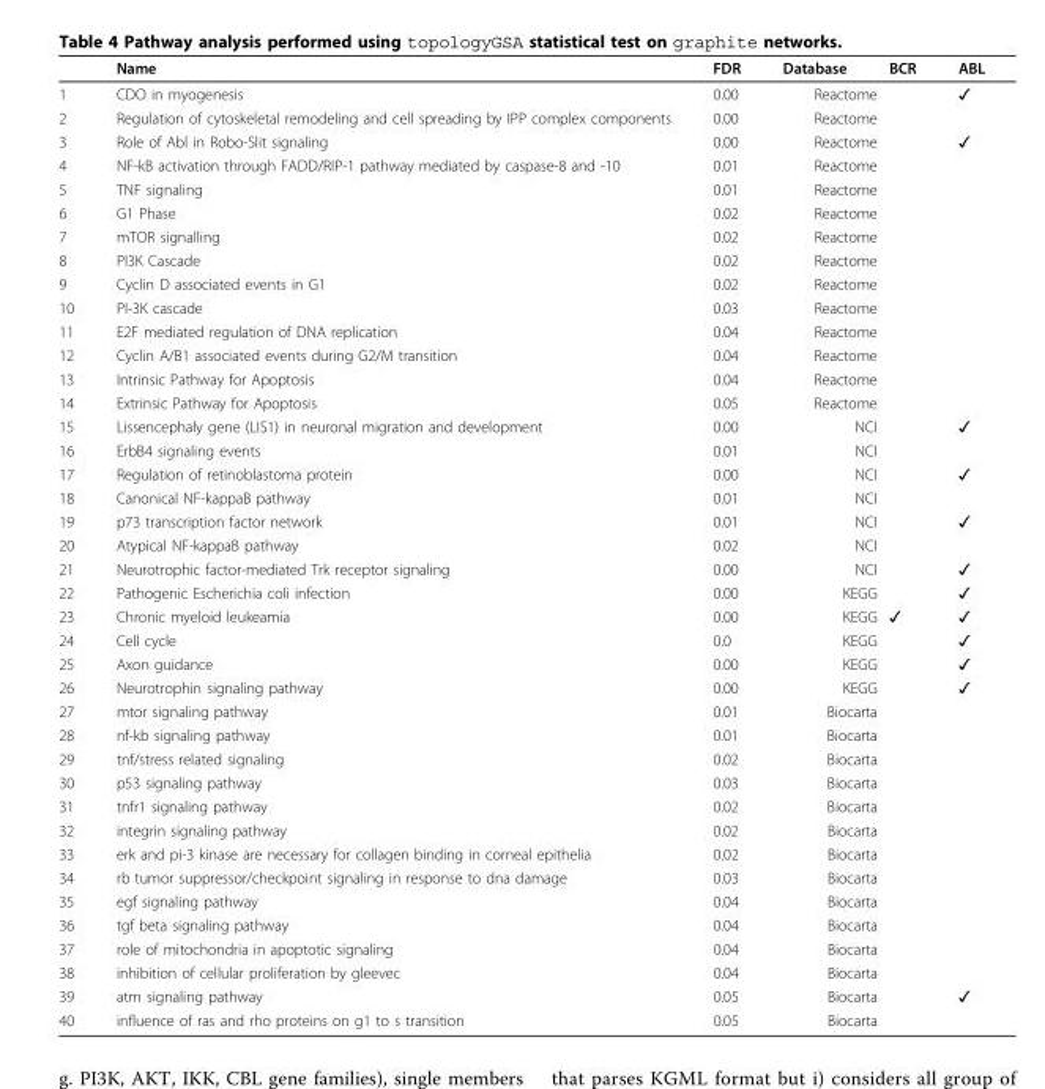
<table><thead><tr><td></td><td>Name</td><td>FDR</td><td>Database</td><td>BCR</td><td>ABL</td></tr></thead><tbody><tr><td>1</td><td>CDO in myogenesis</td><td>0.00</td><td>Reactome</td><td></td><td>✓</td></tr><tr><td>2</td><td>Regulation of cytoskeletal remodeling and cell spreading by IPP complex components</td><td>0.00</td><td>Reactome</td><td></td><td></td></tr><tr><td>3</td><td>Role of Abl in Robo-Slit signaling</td><td>0.00</td><td>Reactome</td><td></td><td>✓</td></tr><tr><td>4</td><td>NF-kB activation through FADD/RIP-1 pathway mediated by caspase-8 and -10</td><td>0.01</td><td>Reactome</td><td></td><td></td></tr><tr><td>5</td><td>TNF signaling</td><td>0.01</td><td>Reactome</td><td></td><td></td></tr><tr><td>6</td><td>G1 Phase</td><td>0.02</td><td>Reactome</td><td></td><td></td></tr><tr><td>7</td><td>mTOR signalling</td><td>0.02</td><td>Reactome</td><td></td><td></td></tr><tr><td>8</td><td>PI3K Cascade</td><td>0.02</td><td>Reactome</td><td></td><td></td></tr><tr><td>9</td><td>Cyclin D associated events in G1</td><td>0.02</td><td>Reactome</td><td></td><td></td></tr><tr><td>10</td><td>PI-3K cascade</td><td>0.03</td><td>Reactome</td><td></td><td></td></tr><tr><td>11</td><td>E2F mediated regulation of DNA replication</td><td>0.04</td><td>Reactome</td><td></td><td></td></tr><tr><td>12</td><td>Cyclin A/B1 associated events during G2/M transition</td><td>0.04</td><td>Reactome</td><td></td><td></td></tr><tr><td>13</td><td>Intrinsic Pathway for Apoptosis</td><td>0.04</td><td>Reactome</td><td></td><td></td></tr><tr><td>14</td><td>Extrinsic Pathway for Apoptosis</td><td>0.05</td><td>Reactome</td><td></td><td></td></tr><tr><td>15</td><td>Lissencephaly gene (LIS1) in neuronal migration and development</td><td>0.00</td><td>NCI</td><td></td><td>✓</td></tr><tr><td>16</td><td>ErbB4 signaling events</td><td>0.01</td><td>NCI</td><td></td><td></td></tr><tr><td>17</td><td>Regulation of retinoblastoma protein</td><td>0.00</td><td>NCI</td><td></td><td>✓</td></tr><tr><td>18</td><td>Canonical NF-kappaB pathway</td><td>0.01</td><td>NCI</td><td></td><td></td></tr><tr><td>19</td><td>p73 transcription factor network</td><td>0.01</td><td>NCI</td><td></td><td>✓</td></tr><tr><td>20</td><td>Atypical NF-kappaB pathway</td><td>0.02</td><td>NCI</td><td></td><td></td></tr><tr><td>21</td><td>Neurotrophic factor-mediated Trk receptor signaling</td><td>0.00</td><td>NCI</td><td></td><td>✓</td></tr><tr><td>22</td><td>Pathogenic Escherichia coli infection</td><td>0.00</td><td>KEGG</td><td></td><td>✓</td></tr><tr><td>23</td><td>Chronic myeloid leukeamia</td><td>0.00</td><td>KEGG</td><td>✓</td><td>✓</td></tr><tr><td>24</td><td>Cell cycle</td><td>0.0</td><td>KEGG</td><td></td><td>✓</td></tr><tr><td>25</td><td>Axon guidance</td><td>0.00</td><td>KEGG</td><td></td><td>✓</td></tr><tr><td>26</td><td>Neurotrophin signaling pathway</td><td>0.00</td><td>KEGG</td><td></td><td>✓</td></tr><tr><td>27</td><td>mtor signaling pathway</td><td>0.01</td><td>Biocarta</td><td></td><td></td></tr><tr><td>28</td><td>nf-kb signaling pathway</td><td>0.01</td><td>Biocarta</td><td></td><td></td></tr><tr><td>29</td><td>tnf/stress related signaling</td><td>0.02</td><td>Biocarta</td><td></td><td></td></tr><tr><td>30</td><td>p53 signaling pathway</td><td>0.03</td><td>Biocarta</td><td></td><td></td></tr><tr><td>31</td><td>tnfr1 signaling pathway</td><td>0.02</td><td>Biocarta</td><td></td><td></td></tr><tr><td>32</td><td>integrin signaling pathway</td><td>0.02</td><td>Biocarta</td><td></td><td></td></tr><tr><td>33</td><td>erk and pi-3 kinase are necessary for collagen binding in corneal epithelia</td><td>0.02</td><td>Biocarta</td><td></td><td></td></tr><tr><td>34</td><td>rb tumor suppressor/checkpoint signaling in response to dna damage</td><td>0.03</td><td>Biocarta</td><td></td><td></td></tr><tr><td>35</td><td>egf signaling pathway</td><td>0.04</td><td>Biocarta</td><td></td><td></td></tr><tr><td>36</td><td>tgf beta signaling pathway</td><td>0.04</td><td>Biocarta</td><td></td><td></td></tr><tr><td>37</td><td>role of mitochondria in apoptotic signaling</td><td>0.04</td><td>Biocarta</td><td></td><td></td></tr><tr><td>38</td><td>inhibition of cellular proliferation by gleevec</td><td>0.04</td><td>Biocarta</td><td></td><td></td></tr><tr><td>39</td><td>atm signaling pathway</td><td>0.05</td><td>Biocarta</td><td></td><td>✓</td></tr><tr><td>40</td><td>influence of ras and rho proteins on g1 to s transition</td><td>0.05</td><td>Biocarta</td><td></td><td></td></tr></tbody></table>